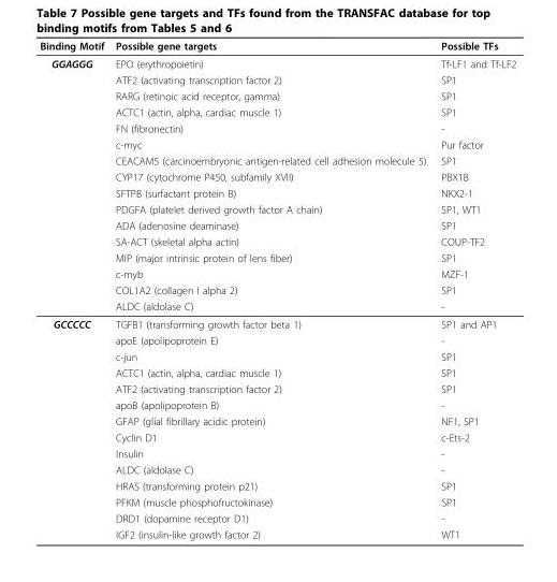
<table><thead><tr><td>Binding Motif</td><td>Possible gene targets</td><td>Possible TFs</td></tr></thead><tbody><tr><td rowspan="16">GGAGGG</td><td>EPO (erythropoietin)</td><td>Tf-LF1 and Tf-LF2</td></tr><tr><td>ATF2 (activating transcription factor 2)</td><td>SP1</td></tr><tr><td>RARG (retinoic acid receptor, gamma)</td><td>SP1</td></tr><tr><td>ACTC1 (actin, alpha, cardiac muscle 1)</td><td>SP1</td></tr><tr><td>FN (fibronectin)</td><td>-</td></tr><tr><td>c-myc</td><td>Pur factor</td></tr><tr><td>CEACAM5 (carcinoembryonic antigen-related cell adhesion molecule 5)</td><td>SP1</td></tr><tr><td>CYP17 (cytochrome P450, subfamily XVII)</td><td>PBX1B</td></tr><tr><td>SFTPB (surfactant protein B)</td><td>NKX2-1</td></tr><tr><td>PDGFA (platelet derived growth factor A chain)</td><td>SP1, WT1</td></tr><tr><td>ADA (adenosine deaminase)</td><td>SP1</td></tr><tr><td>SA-ACT (skeletal alpha actin)</td><td>COUP-TF2</td></tr><tr><td>MIP (major intrinsic protein of lens fiber)</td><td>SP1</td></tr><tr><td>c-myb</td><td>MZF-1</td></tr><tr><td>COL1A2 (collagen I alpha 2)</td><td>SP1</td></tr><tr><td>ALDC (aldolase C)</td><td>-</td></tr><tr><td rowspan="14">GCCCCC</td><td>TGFB1 (transforming growth factor beta 1)</td><td>SP1 and AP1</td></tr><tr><td>apoE (apolipoprotein E)</td><td>-</td></tr><tr><td>c-jun</td><td>SP1</td></tr><tr><td>ACTC1 (actin, alpha, cardiac muscle 1)</td><td>SP1</td></tr><tr><td>ATF2 (activating transcription factor 2)</td><td>SP1</td></tr><tr><td>apoB (apolipoprotein B)</td><td>-</td></tr><tr><td>GFAP (glial fibrillary acidic protein)</td><td>NF1, SP1</td></tr><tr><td>Cyclin D1</td><td>c-Ets-2</td></tr><tr><td>Insulin</td><td>-</td></tr><tr><td>ALDC (aldolase C)</td><td>-</td></tr><tr><td>HRAS (transforming protein p21)</td><td>SP1</td></tr><tr><td>PFKM (muscle phosphofructokinase)</td><td>SP1</td></tr><tr><td>DRD1 (dopamine receptor D1)</td><td>-</td></tr><tr><td>IGF2 (insulin-like growth factor 2)</td><td>WT1</td></tr></tbody></table>